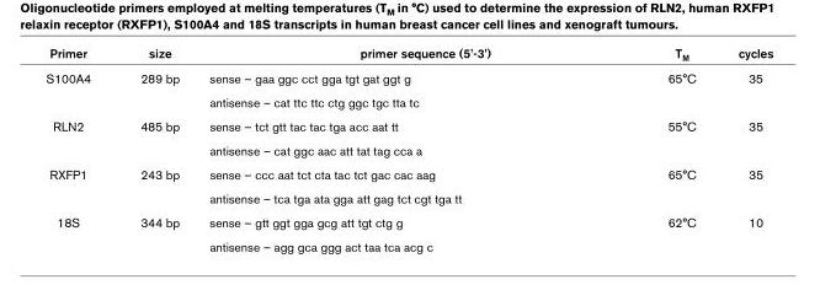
<table><thead><tr><td>Primer</td><td>size</td><td>primer sequence (5&#x27;-3&#x27;)</td><td>T<sub>M</sub></td><td>cycles</td></tr></thead><tbody><tr><td rowspan="2">S100A4</td><td>289 bp</td><td>sense – gaa ggc cct gga tgt gat ggt g</td><td>65°C</td><td>35</td></tr><tr><td></td><td>antisense – cat ttc ttc ctg ggc tgc tta tc</td><td></td><td></td></tr><tr><td rowspan="2">RLN2</td><td>485 bp</td><td>sense – tct gtt tac tac tga acc aat tt</td><td>55°C</td><td>35</td></tr><tr><td></td><td>antisense – cat ggc aac att tat tag cca a</td><td></td><td></td></tr><tr><td rowspan="2">RXFP1</td><td>243 bp</td><td>sense – ccc aat tct cta tac tct gac cac aag</td><td>65°C</td><td>35</td></tr><tr><td></td><td>antisense – tca tga ata gga att gag tct cgt tga tt</td><td></td><td></td></tr><tr><td rowspan="2">18S</td><td>344 bp</td><td>sense – gtt ggt gga gcg att tgt ctg g</td><td>62°C</td><td>10</td></tr><tr><td></td><td>antisense – agg gca ggg act taa tca acg c</td><td></td><td></td></tr></tbody></table>